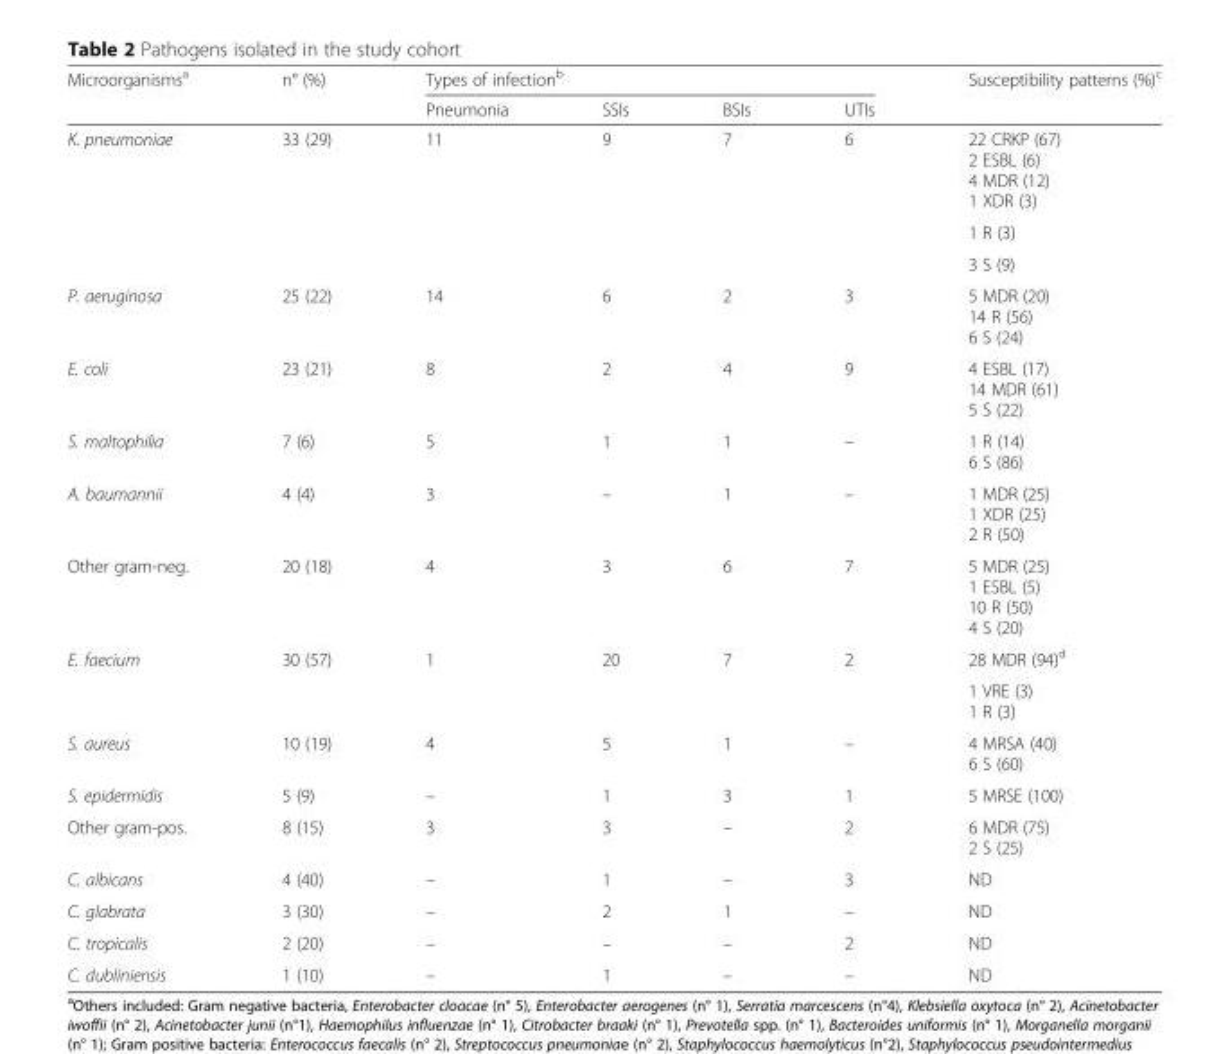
<table><thead><tr><td rowspan="2">Microorganisms<sup>a</sup></td><td rowspan="2">n° (%)</td><td colspan="4">Types of infection<sup>b</sup></td><td rowspan="2">Susceptibility patterns (%)<sup>c</sup></td></tr><tr><td>Pneumonia</td><td>SSIs</td><td>BSIs</td><td>UTIs</td></tr></thead><tbody><tr><td rowspan="3">K. pneumoniae</td><td>33 (29)</td><td>11</td><td>9</td><td>7</td><td>6</td><td>22 CRKP (67) 2 ESBL (6) 4 MDR (12) 1 XDR (3)</td></tr><tr><td></td><td></td><td></td><td></td><td></td><td>1 R (3)</td></tr><tr><td></td><td></td><td></td><td></td><td></td><td>3 S (9)</td></tr><tr><td>P. aeruginosa</td><td>25 (22)</td><td>14</td><td>6</td><td>2</td><td>3</td><td>5 MDR (20) 14 R (56) 6 S (24)</td></tr><tr><td>E. coli</td><td>23 (21)</td><td>8</td><td>2</td><td>4</td><td>9</td><td>4 ESBL (17) 14 MDR (61) 5 S (22)</td></tr><tr><td>S. maltophilia</td><td>7 (6)</td><td>5</td><td>1</td><td>1</td><td>–</td><td>1 R (14) 6 S (86)</td></tr><tr><td>A. baumannii</td><td>4 (4)</td><td>3</td><td>–</td><td>1</td><td>–</td><td>1 MDR (25) 1 XDR (25) 2 R (50)</td></tr><tr><td>Other gram-neg.</td><td>20 (18)</td><td>4</td><td>3</td><td>6</td><td>7</td><td>5 MDR (25) 1 ESBL (5) 10 R (50) 4 S (20)</td></tr><tr><td rowspan="2">E. faecium</td><td>30 (57)</td><td>1</td><td>20</td><td>7</td><td>2</td><td>28 MDR (94)<sup>d</sup></td></tr><tr><td></td><td></td><td></td><td></td><td></td><td>1 VRE (3) 1 R (3)</td></tr><tr><td>S. aureus</td><td>10 (19)</td><td>4</td><td>5</td><td>1</td><td>–</td><td>4 MRSA (40) 6 S (60)</td></tr><tr><td>S. epidermidis</td><td>5 (9)</td><td>–</td><td>1</td><td>3</td><td>1</td><td>5 MRSE (100)</td></tr><tr><td>Other gram-pos.</td><td>8 (15)</td><td>3</td><td>3</td><td>–</td><td>2</td><td>6 MDR (75) 2 S (25)</td></tr><tr><td>C. albicans</td><td>4 (40)</td><td>–</td><td>1</td><td>–</td><td>3</td><td>ND</td></tr><tr><td>C. glabrata</td><td>3 (30)</td><td>–</td><td>2</td><td>1</td><td>–</td><td>ND</td></tr><tr><td>C. tropicalis</td><td>2 (20)</td><td>–</td><td>–</td><td>–</td><td>2</td><td>ND</td></tr><tr><td>C. dubliniensis</td><td>1 (10)</td><td>–</td><td>1</td><td>–</td><td>–</td><td>ND</td></tr></tbody></table>